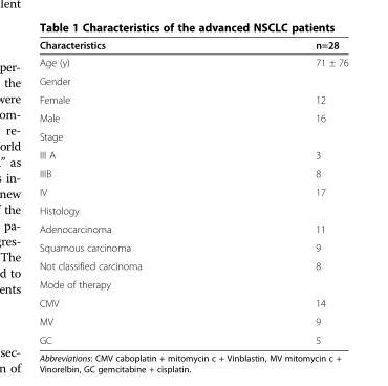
<table><thead><tr><td>Characteristics</td><td>n=28</td></tr></thead><tbody><tr><td>Age (y)</td><td>71 ± 76</td></tr><tr><td colspan="2">Gender</td></tr><tr><td>Female</td><td>12</td></tr><tr><td>Male</td><td>16</td></tr><tr><td colspan="2">Stage</td></tr><tr><td>III A</td><td>3</td></tr><tr><td>IIIB</td><td>8</td></tr><tr><td>IV</td><td>17</td></tr><tr><td colspan="2">Histology</td></tr><tr><td>Adenocarcinoma</td><td>11</td></tr><tr><td>Squamous carcinoma</td><td>9</td></tr><tr><td>Not classified carcinoma</td><td>8</td></tr><tr><td colspan="2">Mode of therapy</td></tr><tr><td>CMV</td><td>14</td></tr><tr><td>MV</td><td>9</td></tr><tr><td>GC</td><td>5</td></tr></tbody></table>